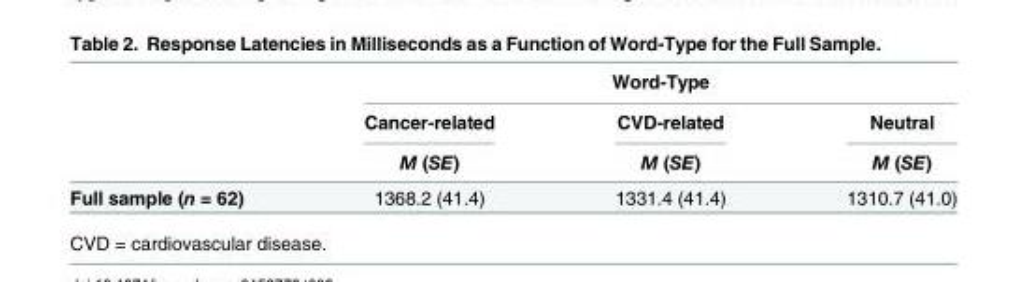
<table><thead><tr><td rowspan="3"></td><td colspan="3">Word-Type</td></tr><tr><td rowspan="2">Cancer-related M (SE)</td><td rowspan="2">CVD-related M (SE)</td><td rowspan="2">Neutral M (SE)</td></tr><tr></tr></thead><tbody><tr><td>Full sample (n = 62)</td><td>1368.2 (41.4)</td><td>1331.4 (41.4)</td><td>1310.7 (41.0)</td></tr></tbody></table>